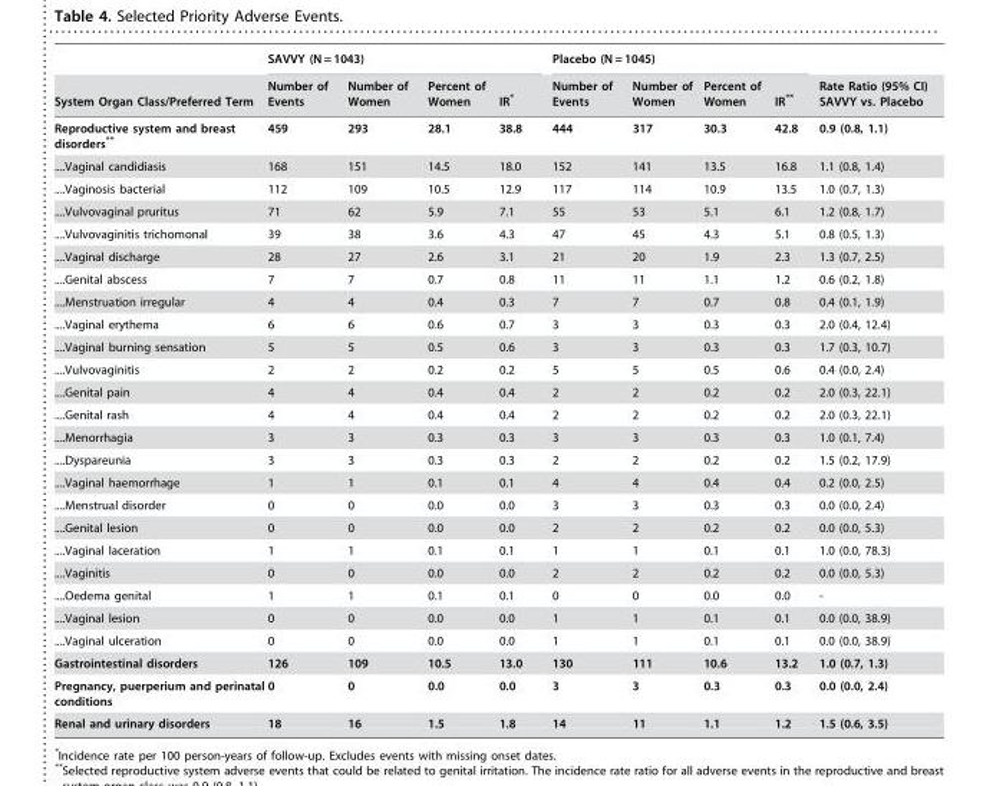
<table><thead><tr><td rowspan="2">System Organ Class/Preferred Term</td><td colspan="4">SAVVY (N = 1043)</td><td colspan="4">Placebo (N = 1045)</td><td rowspan="2">Rate Ratio (95% CI) SAVVY vs. Placebo</td></tr><tr><td>Number of Events</td><td>Number of Women</td><td>Percent of Women</td><td>IR*</td><td>Number of Events</td><td>Number of Women</td><td>Percent of Women</td><td>IR**</td></tr></thead><tbody><tr><td>Reproductive system and breast disorders**</td><td>459</td><td>293</td><td>28.1</td><td>38.8</td><td>444</td><td>317</td><td>30.3</td><td>42.8</td><td>0.9 (0.8, 1.1)</td></tr><tr><td>....Vaginal candidiasis</td><td>168</td><td>151</td><td>14.5</td><td>18.0</td><td>152</td><td>141</td><td>13.5</td><td>16.8</td><td>1.1 (0.8, 1.4)</td></tr><tr><td>....Vaginosis bacterial</td><td>112</td><td>109</td><td>10.5</td><td>12.9</td><td>117</td><td>114</td><td>10.9</td><td>13.5</td><td>1.0 (0.7, 1.3)</td></tr><tr><td>....Vulvovaginal pruritus</td><td>71</td><td>62</td><td>5.9</td><td>7.1</td><td>55</td><td>53</td><td>5.1</td><td>6.1</td><td>1.2 (0.8, 1.7)</td></tr><tr><td>....Vulvovaginitis trichomonal</td><td>39</td><td>38</td><td>3.6</td><td>4.3</td><td>47</td><td>45</td><td>4.3</td><td>5.1</td><td>0.8 (0.5, 1.3)</td></tr><tr><td>....Vaginal discharge</td><td>28</td><td>27</td><td>2.6</td><td>3.1</td><td>21</td><td>20</td><td>1.9</td><td>2.3</td><td>1.3 (0.7, 2.5)</td></tr><tr><td>....Genital abscess</td><td>7</td><td>7</td><td>0.7</td><td>0.8</td><td>11</td><td>11</td><td>1.1</td><td>1.2</td><td>0.6 (0.2, 1.8)</td></tr><tr><td>....Menstruation irregular</td><td>4</td><td>4</td><td>0.4</td><td>0.3</td><td>7</td><td>7</td><td>0.7</td><td>0.8</td><td>0.4 (0.1, 1.9)</td></tr><tr><td>....Vaginal erythema</td><td>6</td><td>6</td><td>0.6</td><td>0.7</td><td>3</td><td>3</td><td>0.3</td><td>0.3</td><td>2.0 (0.4, 12.4)</td></tr><tr><td>....Vaginal burning sensation</td><td>5</td><td>5</td><td>0.5</td><td>0.6</td><td>3</td><td>3</td><td>0.3</td><td>0.3</td><td>1.7 (0.3, 10.7)</td></tr><tr><td>....Vulvovaginitis</td><td>2</td><td>2</td><td>0.2</td><td>0.2</td><td>5</td><td>5</td><td>0.5</td><td>0.6</td><td>0.4 (0.0, 2.4)</td></tr><tr><td>....Genital pain</td><td>4</td><td>4</td><td>0.4</td><td>0.4</td><td>2</td><td>2</td><td>0.2</td><td>0.2</td><td>2.0 (0.3, 22.1)</td></tr><tr><td>....Genital rash</td><td>4</td><td>4</td><td>0.4</td><td>0.4</td><td>2</td><td>2</td><td>0.2</td><td>0.2</td><td>2.0 (0.3, 22.1)</td></tr><tr><td>....Menorrhagia</td><td>3</td><td>3</td><td>0.3</td><td>0.3</td><td>3</td><td>3</td><td>0.3</td><td>0.3</td><td>1.0 (0.1, 7.4)</td></tr><tr><td>....Dyspareunia</td><td>3</td><td>3</td><td>0.3</td><td>0.3</td><td>2</td><td>2</td><td>0.2</td><td>0.2</td><td>1.5 (0.2, 17.9)</td></tr><tr><td>....Vaginal haemorrhage</td><td>1</td><td>1</td><td>0.1</td><td>0.1</td><td>4</td><td>4</td><td>0.4</td><td>0.4</td><td>0.2 (0.0, 2.5)</td></tr><tr><td>....Menstrual disorder</td><td>0</td><td>0</td><td>0.0</td><td>0.0</td><td>3</td><td>3</td><td>0.3</td><td>0.3</td><td>0.0 (0.0, 2.4)</td></tr><tr><td>....Genital lesion</td><td>0</td><td>0</td><td>0.0</td><td>0.0</td><td>2</td><td>2</td><td>0.2</td><td>0.2</td><td>0.0 (0.0, 5.3)</td></tr><tr><td>....Vaginal laceration</td><td>1</td><td>1</td><td>0.1</td><td>0.1</td><td>1</td><td>1</td><td>0.1</td><td>0.1</td><td>1.0 (0.0, 78.3)</td></tr><tr><td>....Vaginitis</td><td>0</td><td>0</td><td>0.0</td><td>0.0</td><td>2</td><td>2</td><td>0.2</td><td>0.2</td><td>0.0 (0.0, 5.3)</td></tr><tr><td>....Oedema genital</td><td>1</td><td>1</td><td>0.1</td><td>0.1</td><td>0</td><td>0</td><td>0.0</td><td>0.0</td><td>-</td></tr><tr><td>....Vaginal lesion</td><td>0</td><td>0</td><td>0.0</td><td>0.0</td><td>1</td><td>1</td><td>0.1</td><td>0.1</td><td>0.0 (0.0, 38.9)</td></tr><tr><td>....Vaginal ulceration</td><td>0</td><td>0</td><td>0.0</td><td>0.0</td><td>1</td><td>1</td><td>0.1</td><td>0.1</td><td>0.0 (0.0, 38.9)</td></tr><tr><td>Gastrointestinal disorders</td><td>126</td><td>109</td><td>10.5</td><td>13.0</td><td>130</td><td>111</td><td>10.6</td><td>13.2</td><td>1.0 (0.7, 1.3)</td></tr><tr><td>Pregnancy, puerperium and perinatal conditions</td><td>0</td><td>0</td><td>0.0</td><td>0.0</td><td>3</td><td>3</td><td>0.3</td><td>0.3</td><td>0.0 (0.0, 2.4)</td></tr><tr><td>Renal and urinary disorders</td><td>18</td><td>16</td><td>1.5</td><td>1.8</td><td>14</td><td>11</td><td>1.1</td><td>1.2</td><td>1.5 (0.6, 3.5)</td></tr></tbody></table>